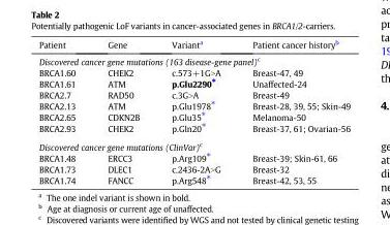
<table><thead><tr><td>Patient</td><td>Gene</td><td>Variant<sup>a</sup></td><td>Patient cancer history<sup>b</sup></td></tr></thead><tbody><tr><td colspan="4">Discovered cancer gene mutations (163 disease-gene panel)<sup>c</sup></td></tr><tr><td>BRCA1.60</td><td>CHEK2</td><td>c.573+1G&gt;A</td><td>Breast-47, 49</td></tr><tr><td>BRCA1.61</td><td>ATM</td><td>p.Glu2290⁎</td><td>Unaffected-24</td></tr><tr><td>BRCA2.7</td><td>RAD50</td><td>c.3G&gt;A</td><td>Breast-49</td></tr><tr><td>BRCA2.13</td><td>ATM</td><td>p.Glu1978⁎</td><td>Breast-28, 39, 55; Skin-49</td></tr><tr><td>BRCA2.65</td><td>CDKN2B</td><td>p.Glu35⁎</td><td>Melanoma-50</td></tr><tr><td>BRCA2.93</td><td>CHEK2</td><td>p.Gln20⁎</td><td>Breast-37, 61; Ovarian-56</td></tr><tr><td colspan="4">Discovered cancer gene mutations (ClinVar)<sup>c</sup></td></tr><tr><td>BRCA1.48</td><td>ERCC3</td><td>p.Arg109⁎</td><td>Breast-39; Skin-61, 66</td></tr><tr><td>BRCA1.73</td><td>DLEC1</td><td>c.2436-2A&gt;G</td><td>Breast-32</td></tr><tr><td>BRCA1.74</td><td>FANCC</td><td>p.Arg548⁎</td><td>Breast-42, 53, 55</td></tr></tbody></table>